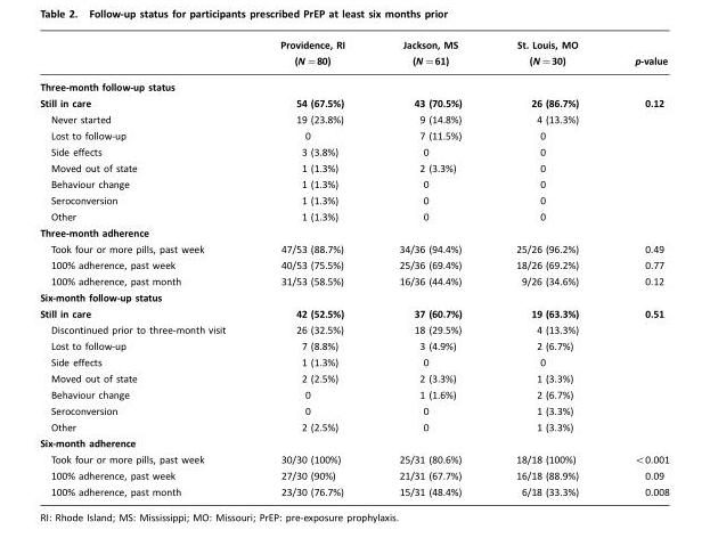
<table><thead><tr><td rowspan="2"></td><td rowspan="2">Providence, RI (N=80)</td><td rowspan="2">Jackson, MS (N=61)</td><td rowspan="2">St. Louis, MO (N=30)</td><td rowspan="2">p-value</td></tr><tr></tr></thead><tbody><tr><td colspan="5">Three-month follow-up status</td></tr><tr><td>Still in care</td><td>54 (67.5%)</td><td>43 (70.5%)</td><td>26 (86.7%)</td><td>0.12</td></tr><tr><td>Never started</td><td>19 (23.8%)</td><td>9 (14.8%)</td><td>4 (13.3%)</td><td></td></tr><tr><td>Lost to follow-up</td><td>0</td><td>7 (11.5%)</td><td>0</td><td></td></tr><tr><td>Side effects</td><td>3 (3.8%)</td><td>0</td><td>0</td><td></td></tr><tr><td>Moved out of state</td><td>1 (1.3%)</td><td>2 (3.3%)</td><td>0</td><td></td></tr><tr><td>Behaviour change</td><td>1 (1.3%)</td><td>0</td><td>0</td><td></td></tr><tr><td>Seroconversion</td><td>1 (1.3%)</td><td>0</td><td>0</td><td></td></tr><tr><td>Other</td><td>1 (1.3%)</td><td>0</td><td>0</td><td></td></tr><tr><td colspan="5">Three-month adherence</td></tr><tr><td>Took four or more pills, past week</td><td>47/53 (88.7%)</td><td>34/36 (94.4%)</td><td>25/26 (96.2%)</td><td>0.49</td></tr><tr><td>100% adherence, past week</td><td>40/53 (75.5%)</td><td>25/36 (69.4%)</td><td>18/26 (69.2%)</td><td>0.77</td></tr><tr><td>100% adherence, past month</td><td>31/53 (58.5%)</td><td>16/36 (44.4%)</td><td>9/26 (34.6%)</td><td>0.12</td></tr><tr><td colspan="5">Six-month follow-up status</td></tr><tr><td>Still in care</td><td>42 (52.5%)</td><td>37 (60.7%)</td><td>19 (63.3%)</td><td>0.51</td></tr><tr><td>Discontinued prior to three-month visit</td><td>26 (32.5%)</td><td>18 (29.5%)</td><td>4 (13.3%)</td><td></td></tr><tr><td>Lost to follow-up</td><td>7 (8.8%)</td><td>3 (4.9%)</td><td>2 (6.7%)</td><td></td></tr><tr><td>Side effects</td><td>1 (1.3%)</td><td>0</td><td>0</td><td></td></tr><tr><td>Moved out of state</td><td>2 (2.5%)</td><td>2 (3.3%)</td><td>1 (3.3%)</td><td></td></tr><tr><td>Behaviour change</td><td>0</td><td>1 (1.6%)</td><td>2 (6.7%)</td><td></td></tr><tr><td>Seroconversion</td><td>0</td><td>0</td><td>1 (3.3%)</td><td></td></tr><tr><td>Other</td><td>2 (2.5%)</td><td>0</td><td>1 (3.3%)</td><td></td></tr><tr><td colspan="5">Six-month adherence</td></tr><tr><td>Took four or more pills, past week</td><td>30/30 (100%)</td><td>25/31 (80.6%)</td><td>18/18 (100%)</td><td>&lt;0.001</td></tr><tr><td>100% adherence, past week</td><td>27/30 (90%)</td><td>21/31 (67.7%)</td><td>16/18 (88.9%)</td><td>0.09</td></tr><tr><td>100% adherence, past month</td><td>23/30 (76.7%)</td><td>15/31 (48.4%)</td><td>6/18 (33.3%)</td><td>0.008</td></tr></tbody></table>